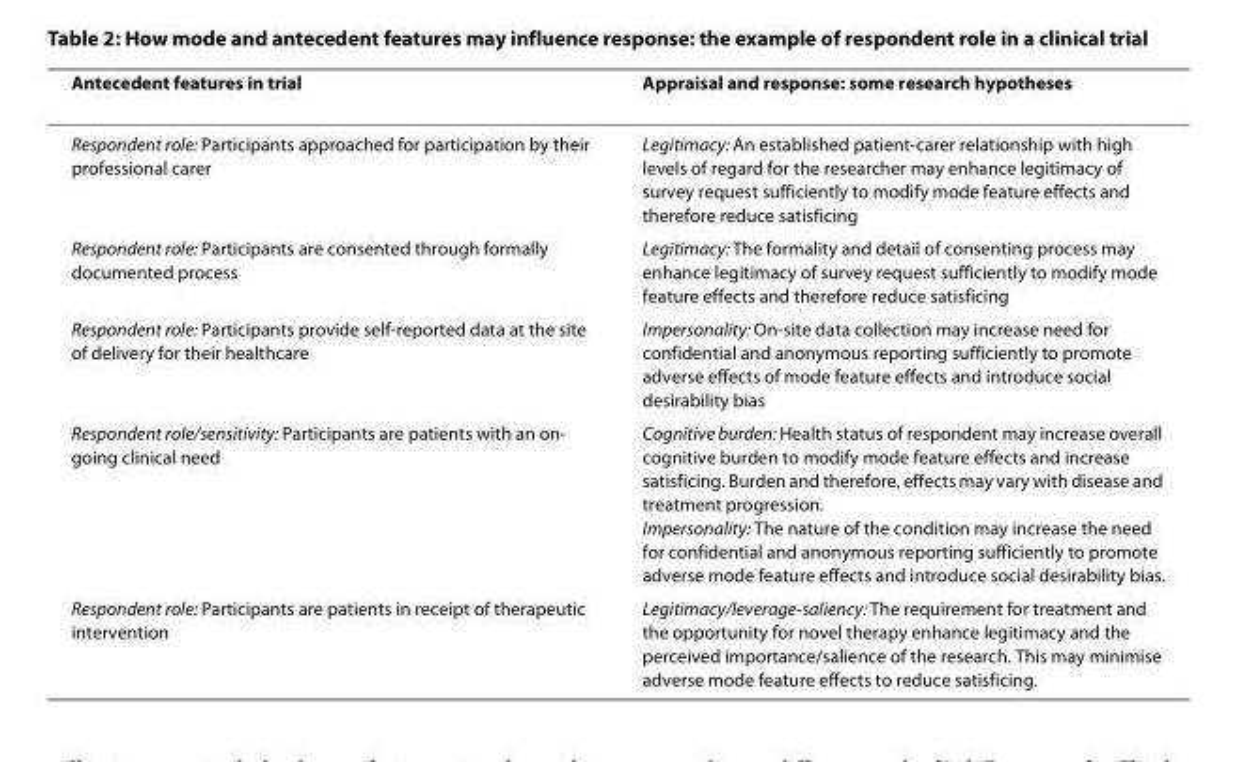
<table><thead><tr><td>Antecedent features in trial</td><td>Appraisal and response: some research hypotheses</td></tr></thead><tbody><tr><td>Respondent role: Participants approached for participation by their professional carer</td><td>Legitimacy: An established patient-carer relationship with high levels of regard for the researcher may enhance legitimacy of survey request sufficiently to modify mode feature effects and therefore reduce satisficing</td></tr><tr><td>Respondent role: Participants are consented through formally documented process</td><td>Legitimacy: The formality and detail of consenting process may enhance legitimacy of survey request sufficiently to modify mode feature effects and therefore reduce satisficing</td></tr><tr><td>Respondent role: Participants provide self-reported data at the site of delivery for their healthcare</td><td>Impersonality: On-site data collection may increase need for confidential and anonymous reporting sufficiently to promote adverse effects of mode feature effects and introduce social desirability bias</td></tr><tr><td>Respondent role/sensitivity: Participants are patients with an on- going clinical need</td><td>Cognitive burden: Health status of respondent may increase overall cognitive burden to modify mode feature effects and increase satisficing. Burden and therefore, effects may vary with disease and treatment progression. Impersonality: The nature of the condition may increase the need for confidential and anonymous reporting sufficiently to promote adverse mode feature effects and introduce social desirability bias.</td></tr><tr><td>Respondent role: Participants are patients in receipt of therapeutic intervention</td><td>Legitimacy/leverage-saliency: The requirement for treatment and the opportunity for novel therapy enhance legitimacy and the perceived importance/salience of the research. This may minimise adverse mode feature effects to reduce satisficing.</td></tr></tbody></table>